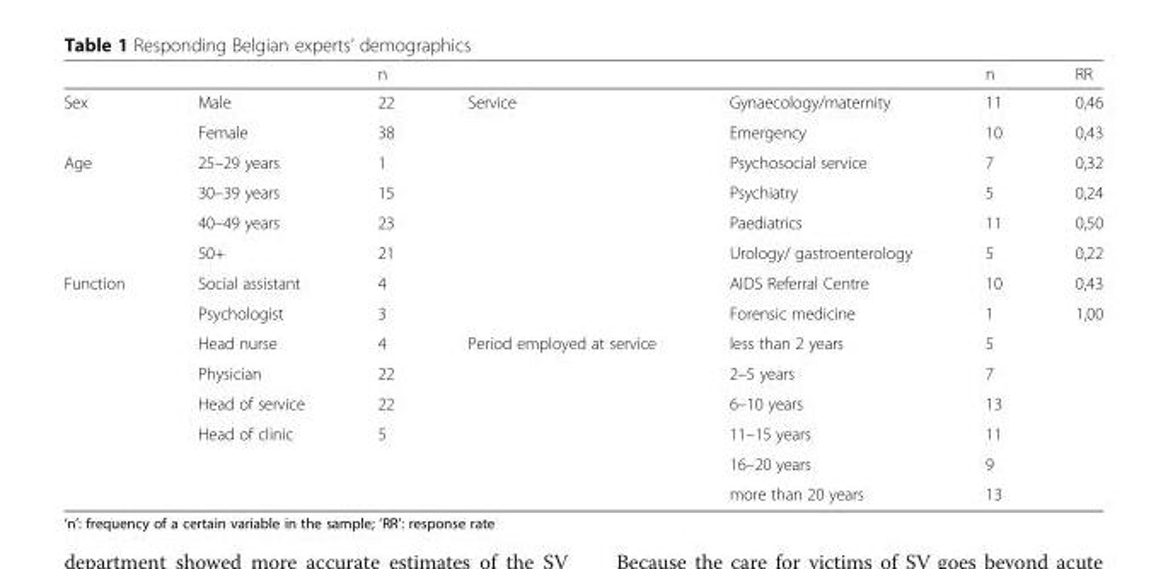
<table><thead><tr><td></td><td></td><td>n</td><td></td><td></td><td>n</td><td>RR</td></tr></thead><tbody><tr><td rowspan="2">Sex</td><td>Male</td><td>22</td><td>Service</td><td>Gynaecology/maternity</td><td>11</td><td>0,46</td></tr><tr><td>Female</td><td>38</td><td></td><td>Emergency</td><td>10</td><td>0,43</td></tr><tr><td rowspan="4">Age</td><td>25–29 years</td><td>1</td><td></td><td>Psychosocial service</td><td>7</td><td>0,32</td></tr><tr><td>30–39 years</td><td>15</td><td></td><td>Psychiatry</td><td>5</td><td>0,24</td></tr><tr><td>40–49 years</td><td>23</td><td></td><td>Paediatrics</td><td>11</td><td>0,50</td></tr><tr><td>50+</td><td>21</td><td></td><td>Urology/ gastroenterology</td><td>5</td><td>0,22</td></tr><tr><td rowspan="8">Function</td><td>Social assistant</td><td>4</td><td></td><td>AIDS Referral Centre</td><td>10</td><td>0,43</td></tr><tr><td>Psychologist</td><td>3</td><td></td><td>Forensic medicine</td><td>1</td><td>1,00</td></tr><tr><td>Head nurse</td><td>4</td><td rowspan="6">Period employed at service</td><td>less than 2 years</td><td colspan="2">5</td></tr><tr><td>Physician</td><td>22</td><td>2–5 years</td><td colspan="2">7</td></tr><tr><td>Head of service</td><td>22</td><td>6–10 years</td><td colspan="2">13</td></tr><tr><td rowspan="3">Head of clinic</td><td rowspan="3">5</td><td>11–15 years</td><td colspan="2">11</td></tr><tr><td>16–20 years</td><td colspan="2">9</td></tr><tr><td>more than 20 years</td><td colspan="2">13</td></tr></tbody></table>